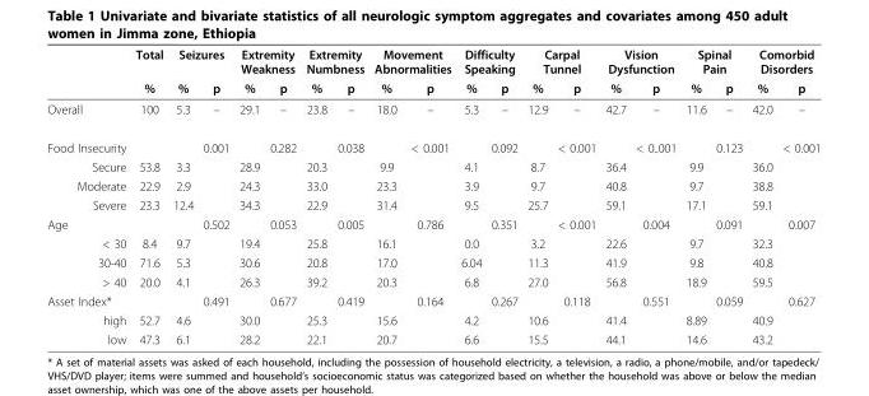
<table><thead><tr><td rowspan="2"></td><td rowspan="2">Total %</td><td colspan="2">Seizures</td><td colspan="2">Extremity Weakness</td><td colspan="2">Extremity Numbness</td><td colspan="2">Movement Abnormalities</td><td colspan="2">Difficulty Speaking</td><td colspan="2">Carpal Tunnel</td><td colspan="2">Vision Dysfunction</td><td colspan="2">Spinal Pain</td><td colspan="2">Comorbid Disorders</td></tr><tr><td>%</td><td>p</td><td>%</td><td>p</td><td>%</td><td>p</td><td>%</td><td>p</td><td>%</td><td>p</td><td>%</td><td>p</td><td>%</td><td>p</td><td>%</td><td>p</td><td>%</td><td>p</td></tr></thead><tbody><tr><td>Overall</td><td>100</td><td>5.3</td><td>–</td><td>29.1</td><td>–</td><td>23.8</td><td>–</td><td>18.0</td><td>–</td><td>5.3</td><td>–</td><td>12.9</td><td>–</td><td>42.7</td><td>–</td><td>11.6</td><td>–</td><td>42.0</td><td>–</td></tr><tr><td>Food Insecurity</td><td></td><td></td><td>0.001</td><td></td><td>0.282</td><td></td><td>0.038</td><td></td><td>&lt; 0.001</td><td></td><td>0.092</td><td></td><td>&lt; 0.001</td><td></td><td>&lt; 0..001</td><td></td><td>0.123</td><td></td><td>&lt; 0.001</td></tr><tr><td>Secure</td><td>53.8</td><td>3.3</td><td></td><td>28.9</td><td></td><td>20.3</td><td></td><td>9.9</td><td></td><td>4.1</td><td></td><td>8.7</td><td></td><td>36.4</td><td></td><td>9.9</td><td></td><td>36.0</td><td></td></tr><tr><td>Moderate</td><td>22.9</td><td>2.9</td><td></td><td>24.3</td><td></td><td>33.0</td><td></td><td>23.3</td><td></td><td>3.9</td><td></td><td>9.7</td><td></td><td>40.8</td><td></td><td>9.7</td><td></td><td>38.8</td><td></td></tr><tr><td>Severe</td><td>23.3</td><td>12.4</td><td></td><td>34.3</td><td></td><td>22.9</td><td></td><td>31.4</td><td></td><td>9.5</td><td></td><td>25.7</td><td></td><td>59.1</td><td></td><td>17.1</td><td></td><td>59.1</td><td></td></tr><tr><td>Age</td><td></td><td></td><td>0.502</td><td></td><td>0.053</td><td></td><td>0.005</td><td></td><td>0.786</td><td></td><td>0.351</td><td></td><td>&lt; 0.001</td><td></td><td>0.004</td><td></td><td>0.091</td><td></td><td>0.007</td></tr><tr><td>&lt; 30</td><td>8.4</td><td>9.7</td><td></td><td>19.4</td><td></td><td>25.8</td><td></td><td>16.1</td><td></td><td>0.0</td><td></td><td>3.2</td><td></td><td>22.6</td><td></td><td>9.7</td><td></td><td>32.3</td><td></td></tr><tr><td>30-40</td><td>71.6</td><td>5.3</td><td></td><td>30.6</td><td></td><td>20.8</td><td></td><td>17.0</td><td></td><td>6.04</td><td></td><td>11.3</td><td></td><td>41.9</td><td></td><td>9.8</td><td></td><td>40.8</td><td></td></tr><tr><td>&gt; 40</td><td>20.0</td><td>4.1</td><td></td><td>26.3</td><td></td><td>39.2</td><td></td><td>20.3</td><td></td><td>6.8</td><td></td><td>27.0</td><td></td><td>56.8</td><td></td><td>18.9</td><td></td><td>59.5</td><td></td></tr><tr><td>Asset Index*</td><td></td><td></td><td>0.491</td><td></td><td>0.677</td><td></td><td>0.419</td><td></td><td>0.164</td><td></td><td>0.267</td><td></td><td>0.118</td><td></td><td>0.551</td><td></td><td>0.059</td><td></td><td>0.627</td></tr><tr><td>high</td><td>52.7</td><td>4.6</td><td></td><td>30.0</td><td></td><td>25.3</td><td></td><td>15.6</td><td></td><td>4.2</td><td></td><td>10.6</td><td></td><td>41.4</td><td></td><td>8.89</td><td></td><td>40.9</td><td></td></tr><tr><td>low</td><td>47.3</td><td>6.1</td><td></td><td>28.2</td><td></td><td>22.1</td><td></td><td>20.7</td><td></td><td>6.6</td><td></td><td>15.5</td><td></td><td>44.1</td><td></td><td>14.6</td><td></td><td>43.2</td><td></td></tr></tbody></table>